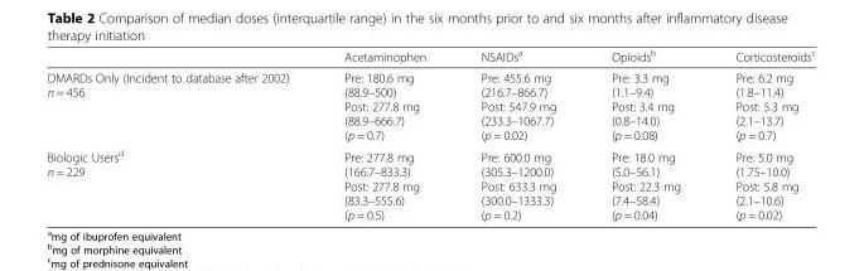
<table><thead><tr><td></td><td>Acetaminophen</td><td>NSAIDs<sup>a</sup></td><td>Opioids<sup>b</sup></td><td>Corticosteroids<sup>c</sup></td></tr></thead><tbody><tr><td>DMARDs Only (Incident to database after 2002) n = 456</td><td>Pre: 180.6 mg (88.9–500) Post: 277.8 mg (88.9–666.7) (p = 0.7)</td><td>Pre: 455.6 mg (216.7–866.7) Post: 547.9 mg (233.3–1067.7) (p = 0.02)</td><td>Pre: 3.3 mg (1.1–9.4) Post: 3.4 mg (0.8–14.0) (p = 0.08)</td><td>Pre: 6.2 mg (1.8–11.4) Post: 5.3 mg (2.1–13.7) (p = 0.7)</td></tr><tr><td>Biologic Users<sup>d</sup> n = 229</td><td>Pre: 277.8 mg (166.7–833.3) Post: 277.8 mg (83.3–555.6) (p = 0.5)</td><td>Pre: 600.0 mg (305.3–1200.0) Post: 633.3 mg (300.0–1333.3) (p = 0.2)</td><td>Pre: 18.0 mg (5.0–56.1) Post: 22.3 mg (7.4–58.4) (p = 0.04)</td><td>Pre: 5.0 mg (1.75–10.0) Post: 5.8 mg (2.1–10.6) (p = 0.02)</td></tr></tbody></table>